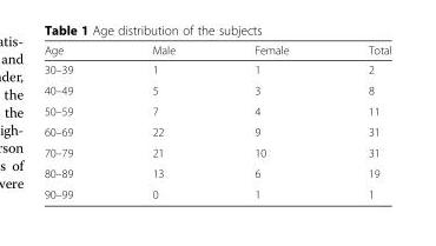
<table><thead><tr><td>Age</td><td>Male</td><td>Female</td><td>Total</td></tr></thead><tbody><tr><td>30–39</td><td>1</td><td>1</td><td>2</td></tr><tr><td>40–49</td><td>5</td><td>3</td><td>8</td></tr><tr><td>50–59</td><td>7</td><td>4</td><td>11</td></tr><tr><td>60–69</td><td>22</td><td>9</td><td>31</td></tr><tr><td>70–79</td><td>21</td><td>10</td><td>31</td></tr><tr><td>80–89</td><td>13</td><td>6</td><td>19</td></tr><tr><td>90–99</td><td>0</td><td>1</td><td>1</td></tr></tbody></table>